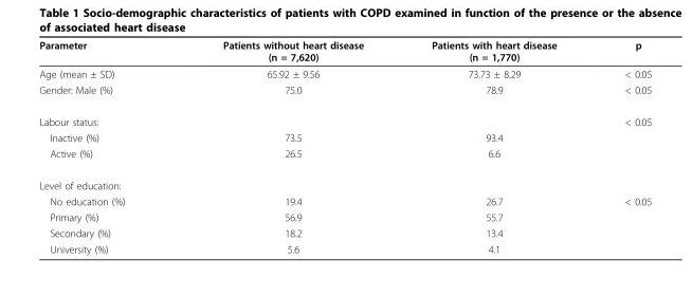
<table><thead><tr><td>Parameter</td><td>Patients without heart disease (n = 7,620)</td><td>Patients with heart disease (n = 1,770)</td><td>p</td></tr></thead><tbody><tr><td>Age (mean ± SD)</td><td>65.92 ± 9.56</td><td>73.73 ± 8.29</td><td>&lt; 0.05</td></tr><tr><td>Gender: Male (%)</td><td>75.0</td><td>78.9</td><td>&lt; 0.05</td></tr><tr><td>Labour status:</td><td></td><td></td><td>&lt; 0.05</td></tr><tr><td>Inactive (%)</td><td>73.5</td><td>93.4</td><td></td></tr><tr><td>Active (%)</td><td>26.5</td><td>6.6</td><td></td></tr><tr><td colspan="4">Level of education:</td></tr><tr><td>No education (%)</td><td>19.4</td><td>26.7</td><td>&lt; 0.05</td></tr><tr><td>Primary (%)</td><td>56.9</td><td>55.7</td><td></td></tr><tr><td>Secondary (%)</td><td>18.2</td><td>13.4</td><td></td></tr><tr><td>University (%)</td><td>5.6</td><td>4.1</td><td></td></tr></tbody></table>